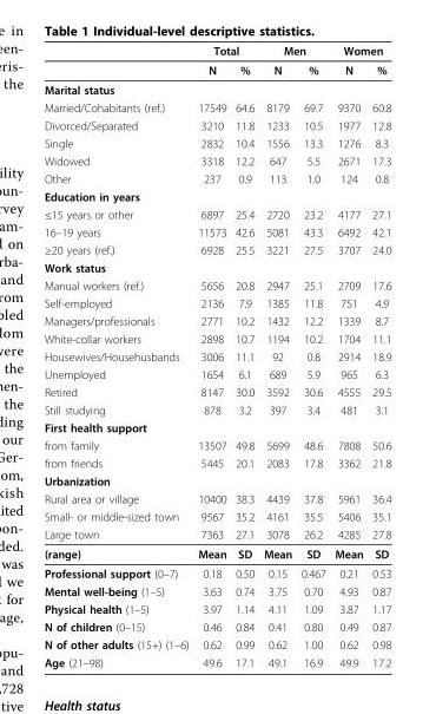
<table><thead><tr><td rowspan="2"></td><td colspan="2">Total</td><td colspan="2">Men</td><td colspan="2">Women</td></tr><tr><td>N</td><td>%</td><td>N</td><td>%</td><td>N</td><td>%</td></tr></thead><tbody><tr><td colspan="7">Marital status</td></tr><tr><td>Married/Cohabitants (ref.)</td><td>17549</td><td>64.6</td><td>8179</td><td>69.7</td><td>9370</td><td>60.8</td></tr><tr><td>Divorced/Separated</td><td>3210</td><td>11.8</td><td>1233</td><td>10.5</td><td>1977</td><td>12.8</td></tr><tr><td>Single</td><td>2832</td><td>10.4</td><td>1556</td><td>13.3</td><td>1276</td><td>8.3</td></tr><tr><td>Widowed</td><td>3318</td><td>12.2</td><td>647</td><td>5.5</td><td>2671</td><td>17.3</td></tr><tr><td>Other</td><td>237</td><td>0.9</td><td>113</td><td>1.0</td><td>124</td><td>0.8</td></tr><tr><td colspan="7">Education in years</td></tr><tr><td>≤15 years or other</td><td>6897</td><td>25.4</td><td>2720</td><td>23.2</td><td>4177</td><td>27.1</td></tr><tr><td>16–19 years</td><td>11573</td><td>42.6</td><td>5081</td><td>43.3</td><td>6492</td><td>42.1</td></tr><tr><td>≥20 years (ref.)</td><td>6928</td><td>25.5</td><td>3221</td><td>27.5</td><td>3707</td><td>24.0</td></tr><tr><td colspan="7">Work status</td></tr><tr><td>Manual workers (ref.)</td><td>5656</td><td>20.8</td><td>2947</td><td>25.1</td><td>2709</td><td>17.6</td></tr><tr><td>Self-employed</td><td>2136</td><td>7.9</td><td>1385</td><td>11.8</td><td>751</td><td>4.9</td></tr><tr><td>Managers/professionals</td><td>2771</td><td>10.2</td><td>1432</td><td>12.2</td><td>1339</td><td>8.7</td></tr><tr><td>White-collar workers</td><td>2898</td><td>10.7</td><td>1194</td><td>10.2</td><td>1704</td><td>11.1</td></tr><tr><td>Housewives/Househusbands</td><td>3006</td><td>11.1</td><td>92</td><td>0.8</td><td>2914</td><td>18.9</td></tr><tr><td>Unemployed</td><td>1654</td><td>6.1</td><td>689</td><td>5.9</td><td>965</td><td>6.3</td></tr><tr><td>Retired</td><td>8147</td><td>30.0</td><td>3592</td><td>30.6</td><td>4555</td><td>29.5</td></tr><tr><td>Still studying</td><td>878</td><td>3.2</td><td>397</td><td>3.4</td><td>481</td><td>3.1</td></tr><tr><td colspan="7">First health support</td></tr><tr><td>from family</td><td>13507</td><td>49.8</td><td>5699</td><td>48.6</td><td>7808</td><td>50.6</td></tr><tr><td>from friends</td><td>5445</td><td>20.1</td><td>2083</td><td>17.8</td><td>3362</td><td>21.8</td></tr><tr><td colspan="7">Urbanization</td></tr><tr><td>Rural area or village</td><td>10400</td><td>38.3</td><td>4439</td><td>37.8</td><td>5961</td><td>36.4</td></tr><tr><td>Small- or middle-sized town</td><td>9567</td><td>35.2</td><td>4161</td><td>35.5</td><td>5406</td><td>35.1</td></tr><tr><td>Large town</td><td>7363</td><td>27.1</td><td>3078</td><td>26.2</td><td>4285</td><td>27.8</td></tr><tr><td>(range)</td><td>Mean</td><td>SD</td><td>Mean</td><td>SD</td><td>Mean</td><td>SD</td></tr><tr><td>Professional support (0–7)</td><td>0.18</td><td>0.50</td><td>0.15</td><td>0.467</td><td>0.21</td><td>0.53</td></tr><tr><td>Mental well-being (1–5)</td><td>3.63</td><td>0.74</td><td>3.75</td><td>0.70</td><td>4.93</td><td>0.87</td></tr><tr><td>Physical health (1–5)</td><td>3.97</td><td>1.14</td><td>4.11</td><td>1.09</td><td>3.87</td><td>1.17</td></tr><tr><td>N of children (0–15)</td><td>0.46</td><td>0.84</td><td>0.41</td><td>0.80</td><td>0.49</td><td>0.87</td></tr><tr><td>N of other adults (15+) (1–6)</td><td>0.62</td><td>0.99</td><td>0.62</td><td>1.00</td><td>0.62</td><td>0.98</td></tr><tr><td>Age (21–98)</td><td>49.6</td><td>17.1</td><td>49.1</td><td>16.9</td><td>49.9</td><td>17.2</td></tr></tbody></table>